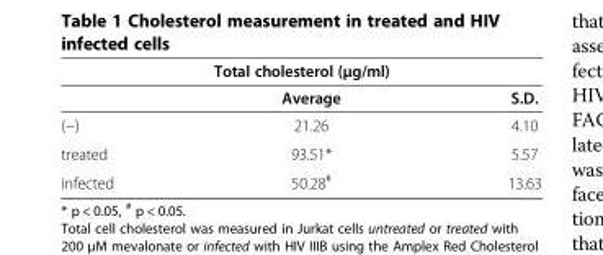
<table><thead><tr><td colspan="3">Total cholesterol (μg/ml)</td></tr><tr><td></td><td>Average</td><td>S.D.</td></tr></thead><tbody><tr><td>(−)</td><td>21.26</td><td>4.10</td></tr><tr><td>treated</td><td>93.51*</td><td>5.57</td></tr><tr><td>infected</td><td>50.28<sup>#</sup></td><td>13.63</td></tr></tbody></table>